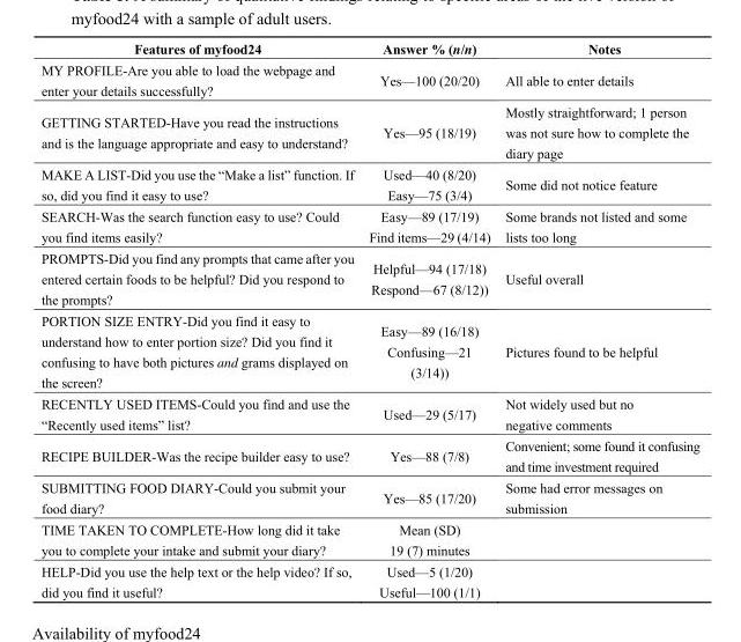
<table><thead><tr><td>Features of myfood24</td><td>Answer % (n/n)</td><td>Notes</td></tr></thead><tbody><tr><td>MY PROFILE-Are you able to load the webpage and enter your details successfully?</td><td>Yes—100 (20/20)</td><td>All able to enter details</td></tr><tr><td>GETTING STARTED-Have you read the instructions and is the language appropriate and easy to understand?</td><td>Yes—95 (18/19)</td><td>Mostly straightforward; 1 person was not sure how to complete the diary page</td></tr><tr><td>MAKE A LIST-Did you use the “Make a list” function. If so, did you find it easy to use?</td><td>Used—40 (8/20) Easy—75 (3/4)</td><td>Some did not notice feature</td></tr><tr><td>SEARCH-Was the search function easy to use? Could you find items easily?</td><td>Easy—89 (17/19) Find items—29 (4/14)</td><td>Some brands not listed and some lists too long</td></tr><tr><td>PROMPTS-Did you find any prompts that came after you entered certain foods to be helpful? Did you respond to the prompts?</td><td>Helpful—94 (17/18) Respond—67 (8/12))</td><td>Useful overall</td></tr><tr><td>PORTION SIZE ENTRY-Did you find it easy to understand how to enter portion size? Did you find it confusing to have both pictures and grams displayed on the screen?</td><td>Easy—89 (16/18) Confusing—21 (3/14))</td><td>Pictures found to be helpful</td></tr><tr><td>RECENTLY USED ITEMS-Could you find and use the “Recently used items” list?</td><td>Used—29 (5/17)</td><td>Not widely used but no negative comments</td></tr><tr><td>RECIPE BUILDER-Was the recipe builder easy to use?</td><td>Yes—88 (7/8)</td><td>Convenient; some found it confusing and time investment required</td></tr><tr><td>SUBMITTING FOOD DIARY-Could you submit your food diary?</td><td>Yes—85 (17/20)</td><td>Some had error messages on submission</td></tr><tr><td>TIME TAKEN TO COMPLETE-How long did it take you to complete your intake and submit your diary?</td><td>Mean (SD) 19 (7) minutes</td><td></td></tr><tr><td>HELP-Did you use the help text or the help video? If so, did you find it useful?</td><td>Used—5 (1/20) Useful—100 (1/1)</td><td></td></tr></tbody></table>